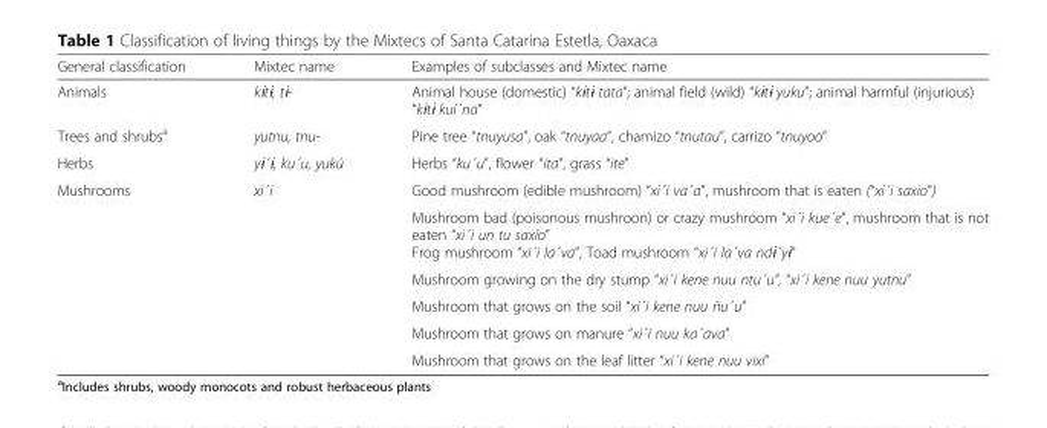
<table><thead><tr><td>General classification</td><td>Mixtec name</td><td>Examples of subclasses and Mixtec name</td></tr></thead><tbody><tr><td>Animals</td><td>kɨtɨ, tɨ-</td><td>Animal house (domestic) “kɨtɨ tata”; animal field (wild) “kɨtɨ yuku”; animal harmful (injurious) “kɨtɨ kui´na”</td></tr><tr><td>Trees and shrubs<sup>a</sup></td><td>yutnu, tnu-</td><td>Pine tree “tnuyusa”, oak “tnuyaa”, chamizo “tnutau”, carrizo “tnuyoo”</td></tr><tr><td>Herbs</td><td>yɨ´ɨ, ku´u, yukú</td><td>Herbs “ku´u”, flower “ita”, grass “ite”</td></tr><tr><td rowspan="6">Mushrooms</td><td rowspan="6">xi´i</td><td>Good mushroom (edible mushroom) “xi´i va´a”, mushroom that is eaten (“xi´i saxio”)</td></tr><tr><td>Mushroom bad (poisonous mushroon) or crazy mushroom “xi´i kue´e”, mushroom that is not eaten “xi´i un tu saxío” Frog mushroom “xi´i la´va”, Toad mushroom “xi´i la´va ndɨ´yɨ”</td></tr><tr><td>Mushroom growing on the dry stump “xi´i kene nuu ntu´u”, “xi´i kene nuu yutnu”</td></tr><tr><td>Mushroom that grows on the soil “xi´i kene nuu ñu´u”</td></tr><tr><td>Mushroom that grows on manure “xi´i nuu ka´ava”</td></tr><tr><td>Mushroom that grows on the leaf litter “xi´i kene nuu vixi”</td></tr></tbody></table>